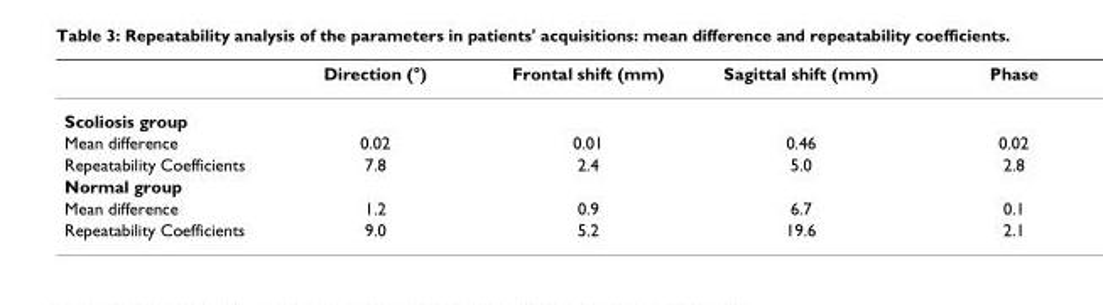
<table><thead><tr><td></td><td>Direction (°)</td><td>Frontal shift (mm)</td><td>Sagittal shift (mm)</td><td>Phase</td></tr></thead><tbody><tr><td colspan="5">Scoliosis group</td></tr><tr><td>Mean difference</td><td>0.02</td><td>0.01</td><td>0.46</td><td>0.02</td></tr><tr><td>Repeatability Coefficients</td><td>7.8</td><td>2.4</td><td>5.0</td><td>2.8</td></tr><tr><td colspan="5">Normal group</td></tr><tr><td>Mean difference</td><td>1.2</td><td>0.9</td><td>6.7</td><td>0.1</td></tr><tr><td>Repeatability Coefficients</td><td>9.0</td><td>5.2</td><td>19.6</td><td>2.1</td></tr></tbody></table>